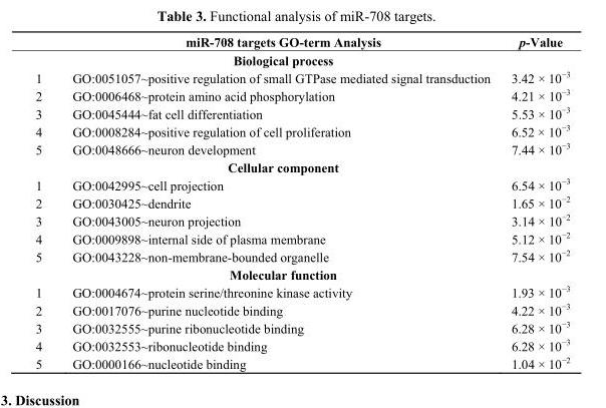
<table><thead><tr><td></td><td>miR-708 targets GO-term Analysis</td><td>p-Value</td></tr></thead><tbody><tr><td colspan="3">Biological process</td></tr><tr><td>1</td><td>GO:0051057~positive regulation of small GTPase mediated signal transduction</td><td>3.42 × 10<sup>−3</sup></td></tr><tr><td>2</td><td>GO:0006468~protein amino acid phosphorylation</td><td>4.21 × 10<sup>−3</sup></td></tr><tr><td>3</td><td>GO:0045444~fat cell differentiation</td><td>5.53 × 10<sup>−3</sup></td></tr><tr><td>4</td><td>GO:0008284~positive regulation of cell proliferation</td><td>6.52 × 10<sup>−3</sup></td></tr><tr><td>5</td><td>GO:0048666~neuron development</td><td>7.44 × 10<sup>−3</sup></td></tr><tr><td colspan="3">Cellular component</td></tr><tr><td>1</td><td>GO:0042995~cell projection</td><td>6.54 × 10<sup>−3</sup></td></tr><tr><td>2</td><td>GO:0030425~dendrite</td><td>1.65 × 10<sup>−2</sup></td></tr><tr><td>3</td><td>GO:0043005~neuron projection</td><td>3.14 × 10<sup>−2</sup></td></tr><tr><td>4</td><td>GO:0009898~internal side of plasma membrane</td><td>5.12 × 10<sup>−2</sup></td></tr><tr><td>5</td><td>GO:0043228~non-membrane-bounded organelle</td><td>7.54 × 10<sup>−2</sup></td></tr><tr><td colspan="3">Molecular function</td></tr><tr><td>1</td><td>GO:0004674~protein serine/threonine kinase activity</td><td>1.93 × 10<sup>−3</sup></td></tr><tr><td>2</td><td>GO:0017076~purine nucleotide binding</td><td>4.22 × 10<sup>−3</sup></td></tr><tr><td>3</td><td>GO:0032555~purine ribonucleotide binding</td><td>6.28 × 10<sup>−3</sup></td></tr><tr><td>4</td><td>GO:0032553~ribonucleotide binding</td><td>6.28 × 10<sup>−3</sup></td></tr><tr><td>5</td><td>GO:0000166~nucleotide binding</td><td>1.04 × 10<sup>−2</sup></td></tr></tbody></table>